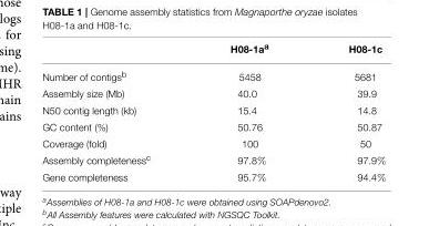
<table><thead><tr><td></td><td>H08-1a<sup>a</sup></td><td>H08-1c</td></tr></thead><tbody><tr><td>Number of contigs<sup>b</sup></td><td>5458</td><td>5681</td></tr><tr><td>Assembly size (Mb)</td><td>40.0</td><td>39.9</td></tr><tr><td>N50 contig length (kb)</td><td>15.4</td><td>14.8</td></tr><tr><td>GC content (%)</td><td>50.76</td><td>50.87</td></tr><tr><td>Coverage (fold)</td><td>100</td><td>50</td></tr><tr><td>Assembly completeness<sup>c</sup></td><td>97.8%</td><td>97.9%</td></tr><tr><td>Gene completeness</td><td>95.7%</td><td>94.4%</td></tr></tbody></table>